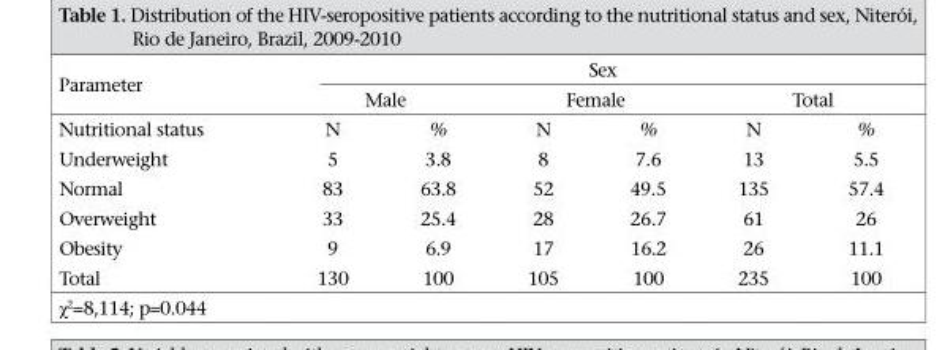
<table><thead><tr><td rowspan="3">Parameter Nutritional status</td><td colspan="6">Sex</td></tr><tr><td colspan="2">Male</td><td colspan="2">Female</td><td colspan="2">Total</td></tr><tr><td>N</td><td>%</td><td>N</td><td>%</td><td>N</td><td>%</td></tr></thead><tbody><tr><td>Underweight</td><td>5</td><td>3.8</td><td>8</td><td>7.6</td><td>13</td><td>5.5</td></tr><tr><td>Normal</td><td>83</td><td>63.8</td><td>52</td><td>49.5</td><td>135</td><td>57.4</td></tr><tr><td>Overweight</td><td>33</td><td>25.4</td><td>28</td><td>26.7</td><td>61</td><td>26</td></tr><tr><td>Obesity</td><td>9</td><td>6.9</td><td>17</td><td>16.2</td><td>26</td><td>11.1</td></tr><tr><td>Total</td><td>130</td><td>100</td><td>105</td><td>100</td><td>235</td><td>100</td></tr></tbody></table>